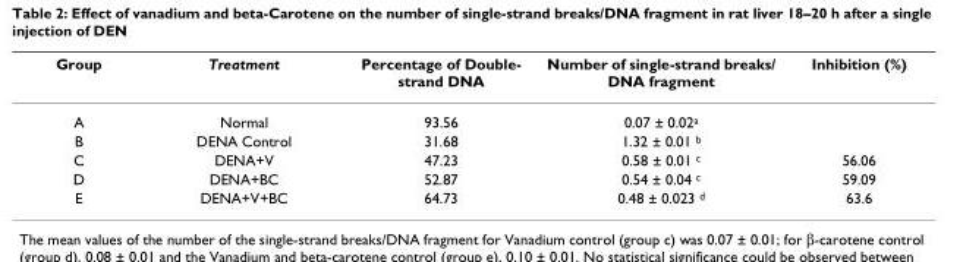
<table><thead><tr><td>Group</td><td>Treatment</td><td>Percentage of Double- strand DNA</td><td>Number of single-strand breaks/ DNA fragment</td><td>Inhibition (%)</td></tr></thead><tbody><tr><td>A</td><td>Normal</td><td>93.56</td><td>0.07 ± 0.02<sup>a</sup></td><td></td></tr><tr><td>B</td><td>DENA Control</td><td>31.68</td><td>1.32 ± 0.01 <sup>b</sup></td><td></td></tr><tr><td>C</td><td>DENA+V</td><td>47.23</td><td>0.58 ± 0.01 <sup>c</sup></td><td>56.06</td></tr><tr><td>D</td><td>DENA+BC</td><td>52.87</td><td>0.54 ± 0.04 <sup>c</sup></td><td>59.09</td></tr><tr><td>E</td><td>DENA+V+BC</td><td>64.73</td><td>0.48 ± 0.023 <sup>d</sup></td><td>63.6</td></tr></tbody></table>